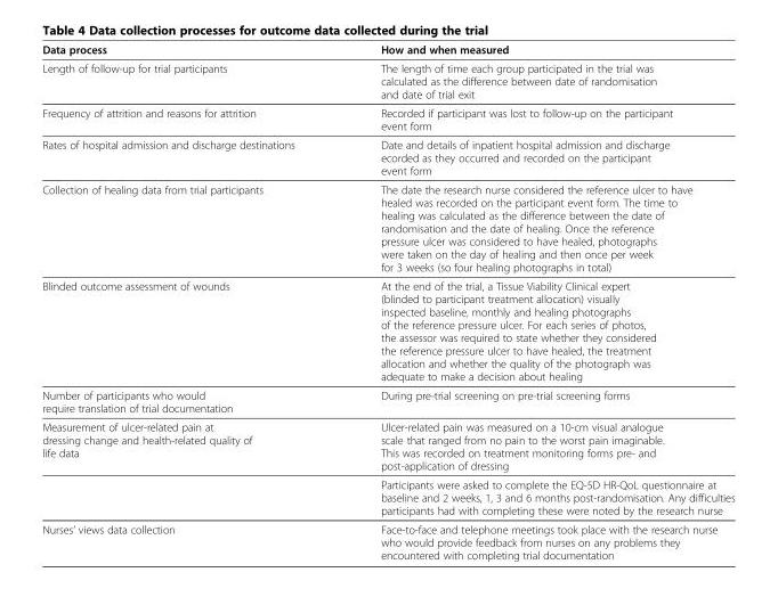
<table><thead><tr><td>Data process</td><td>How and when measured</td></tr></thead><tbody><tr><td>Length of follow-up for trial participants</td><td>The length of time each group participated in the trial was calculated as the difference between date of randomisation and date of trial exit</td></tr><tr><td>Frequency of attrition and reasons for attrition</td><td>Recorded if participant was lost to follow-up on the participant event form</td></tr><tr><td>Rates of hospital admission and discharge destinations</td><td>Date and details of inpatient hospital admission and discharge ecorded as they occurred and recorded on the participant event form</td></tr><tr><td>Collection of healing data from trial participants</td><td>The date the research nurse considered the reference ulcer to have healed was recorded on the participant event form. The time to healing was calculated as the difference between the date of randomisation and the date of healing. Once the reference pressure ulcer was considered to have healed, photographs were taken on the day of healing and then once per week for 3 weeks (so four healing photographs in total)</td></tr><tr><td>Blinded outcome assessment of wounds</td><td>At the end of the trial, a Tissue Viability Clinical expert (blinded to participant treatment allocation) visually inspected baseline, monthly and healing photographs of the reference pressure ulcer. For each series of photos, the assessor was required to state whether they considered the reference pressure ulcer to have healed, the treatment allocation and whether the quality of the photograph was adequate to make a decision about healing</td></tr><tr><td>Number of participants who would require translation of trial documentation</td><td>During pre-trial screening on pre-trial screening forms</td></tr><tr><td rowspan="2">Measurement of ulcer-related pain at dressing change and health-related quality of life data</td><td>Ulcer-related pain was measured on a 10-cm visual analogue scale that ranged from no pain to the worst pain imaginable. This was recorded on treatment monitoring forms pre- and post-application of dressing</td></tr><tr><td>Participants were asked to complete the EQ-5D HR-QoL questionnaire at baseline and 2 weeks, 1, 3 and 6 months post-randomisation. Any difficulties participants had with completing these were noted by the research nurse</td></tr><tr><td>Nurses’ views data collection</td><td>Face-to-face and telephone meetings took place with the research nurse who would provide feedback from nurses on any problems they encountered with completing trial documentation</td></tr></tbody></table>